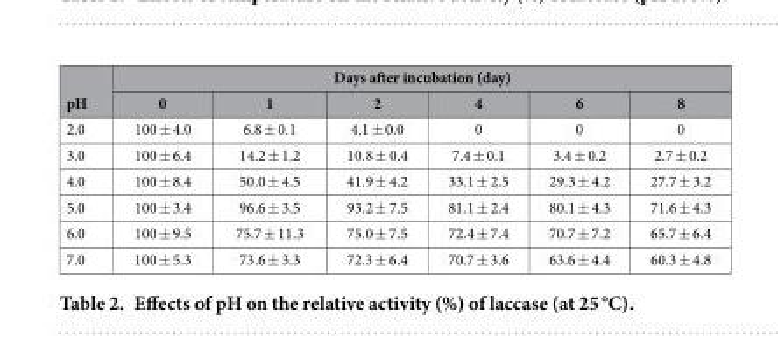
<table><thead><tr><td rowspan="2">pH</td><td colspan="6">Days after incubation (day)</td></tr><tr><td>0</td><td>1</td><td>2</td><td>4</td><td>6</td><td>8</td></tr></thead><tbody><tr><td>2.0</td><td>100 ± 4.0</td><td>6.8 ± 0.1</td><td>4.1 ± 0.0</td><td>0</td><td>0</td><td>0</td></tr><tr><td>3.0</td><td>100 ± 6.4</td><td>14.2 ± 1.2</td><td>10.8 ± 0.4</td><td>7.4 ± 0.1</td><td>3.4 ± 0.2</td><td>2.7 ± 0.2</td></tr><tr><td>4.0</td><td>100 ± 8.4</td><td>50.0 ± 4.5</td><td>41.9 ± 4.2</td><td>33.1 ± 2.5</td><td>29.3 ± 4.2</td><td>27.7 ± 3.2</td></tr><tr><td>5.0</td><td>100 ± 3.4</td><td>96.6 ± 3.5</td><td>93.2 ± 7.5</td><td>81.1 ± 2.4</td><td>80.1 ± 4.3</td><td>71.6 ± 4.3</td></tr><tr><td>6.0</td><td>100 ± 9.5</td><td>75.7 ± 11.3</td><td>75.0 ± 7.5</td><td>72.4 ± 7.4</td><td>70.7 ± 7.2</td><td>65.7 ± 6.4</td></tr><tr><td>7.0</td><td>100 ± 5.3</td><td>73.6 ± 3.3</td><td>72.3 ± 6.4</td><td>70.7 ± 3.6</td><td>63.6 ± 4.4</td><td>60.3 ± 4.8</td></tr></tbody></table>